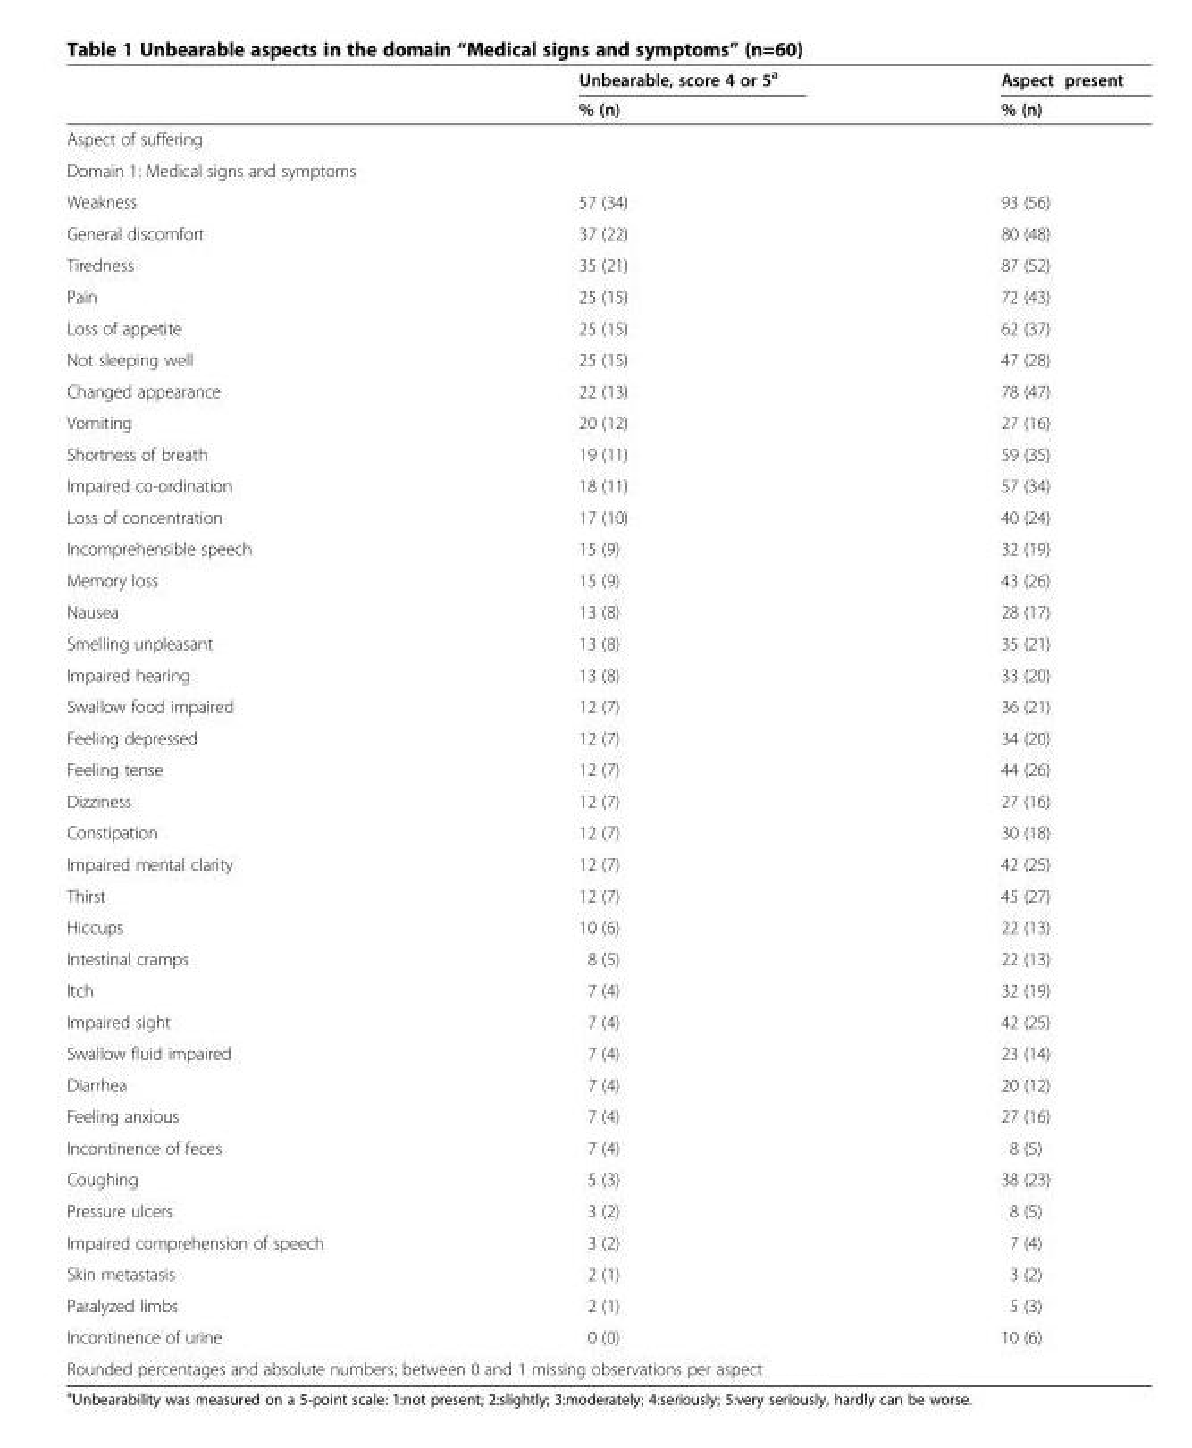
<table><thead><tr><td rowspan="2"></td><td rowspan="2">Unbearable, score 4 or 5<sup>a</sup> % (n)</td><td rowspan="2">Aspect present % (n)</td></tr><tr></tr></thead><tbody><tr><td colspan="3">Aspect of suffering</td></tr><tr><td colspan="3">Domain 1: Medical signs and symptoms</td></tr><tr><td>Weakness</td><td>57 (34)</td><td>93 (56)</td></tr><tr><td>General discomfort</td><td>37 (22)</td><td>80 (48)</td></tr><tr><td>Tiredness</td><td>35 (21)</td><td>87 (52)</td></tr><tr><td>Pain</td><td>25 (15)</td><td>72 (43)</td></tr><tr><td>Loss of appetite</td><td>25 (15)</td><td>62 (37)</td></tr><tr><td>Not sleeping well</td><td>25 (15)</td><td>47 (28)</td></tr><tr><td>Changed appearance</td><td>22 (13)</td><td>78 (47)</td></tr><tr><td>Vomiting</td><td>20 (12)</td><td>27 (16)</td></tr><tr><td>Shortness of breath</td><td>19 (11)</td><td>59 (35)</td></tr><tr><td>Impaired co-ordination</td><td>18 (11)</td><td>57 (34)</td></tr><tr><td>Loss of concentration</td><td>17 (10)</td><td>40 (24)</td></tr><tr><td>Incomprehensible speech</td><td>15 (9)</td><td>32 (19)</td></tr><tr><td>Memory loss</td><td>15 (9)</td><td>43 (26)</td></tr><tr><td>Nausea</td><td>13 (8)</td><td>28 (17)</td></tr><tr><td>Smelling unpleasant</td><td>13 (8)</td><td>35 (21)</td></tr><tr><td>Impaired hearing</td><td>13 (8)</td><td>33 (20)</td></tr><tr><td>Swallow food impaired</td><td>12 (7)</td><td>36 (21)</td></tr><tr><td>Feeling depressed</td><td>12 (7)</td><td>34 (20)</td></tr><tr><td>Feeling tense</td><td>12 (7)</td><td>44 (26)</td></tr><tr><td>Dizziness</td><td>12 (7)</td><td>27 (16)</td></tr><tr><td>Constipation</td><td>12 (7)</td><td>30 (18)</td></tr><tr><td>Impaired mental clarity</td><td>12 (7)</td><td>42 (25)</td></tr><tr><td>Thirst</td><td>12 (7)</td><td>45 (27)</td></tr><tr><td>Hiccups</td><td>10 (6)</td><td>22 (13)</td></tr><tr><td>Intestinal cramps</td><td>8 (5)</td><td>22 (13)</td></tr><tr><td>Itch</td><td>7 (4)</td><td>32 (19)</td></tr><tr><td>Impaired sight</td><td>7 (4)</td><td>42 (25)</td></tr><tr><td>Swallow fluid impaired</td><td>7 (4)</td><td>23 (14)</td></tr><tr><td>Diarrhea</td><td>7 (4)</td><td>20 (12)</td></tr><tr><td>Feeling anxious</td><td>7 (4)</td><td>27 (16)</td></tr><tr><td>Incontinence of feces</td><td>7 (4)</td><td>8 (5)</td></tr><tr><td>Coughing</td><td>5 (3)</td><td>38 (23)</td></tr><tr><td>Pressure ulcers</td><td>3 (2)</td><td>8 (5)</td></tr><tr><td>Impaired comprehension of speech</td><td>3 (2)</td><td>7 (4)</td></tr><tr><td>Skin metastasis</td><td>2 (1)</td><td>3 (2)</td></tr><tr><td>Paralyzed limbs</td><td>2 (1)</td><td>5 (3)</td></tr><tr><td>Incontinence of urine</td><td>0 (0)</td><td>10 (6)</td></tr><tr><td colspan="3">Rounded percentages and absolute numbers; between 0 and 1 missing observations per aspect</td></tr></tbody></table>